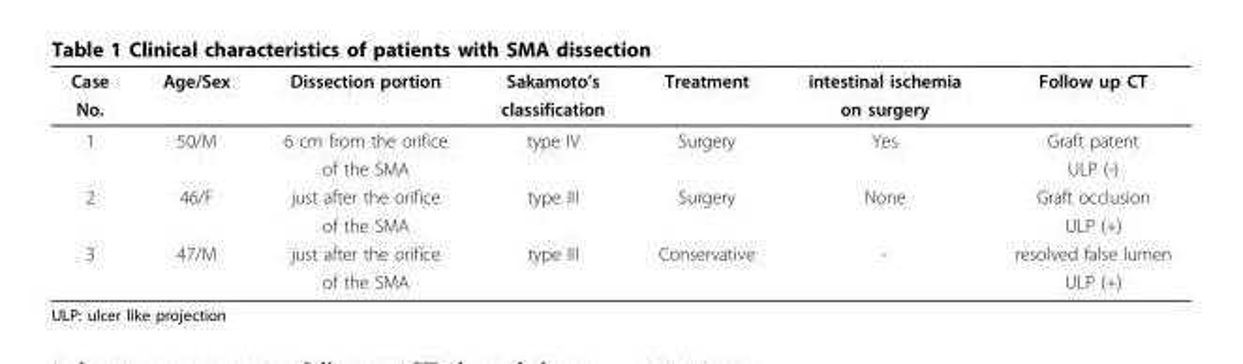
<table><thead><tr><td rowspan="2">Case No.</td><td rowspan="2">Age/Sex</td><td rowspan="2">Dissection portion</td><td rowspan="2">Sakamoto’s classification</td><td rowspan="2">Treatment</td><td rowspan="2">intestinal ischemia on surgery</td><td rowspan="2">Follow up CT</td></tr><tr></tr></thead><tbody><tr><td rowspan="2">1</td><td>50/M</td><td>6 cm from the orifice</td><td>type IV</td><td>Surgery</td><td>Yes</td><td>Graft patent</td></tr><tr><td></td><td>of the SMA</td><td></td><td></td><td></td><td>ULP (-)</td></tr><tr><td rowspan="2">2</td><td>46/F</td><td>just after the orifice</td><td>type III</td><td>Surgery</td><td>None</td><td>Graft occlusion</td></tr><tr><td></td><td>of the SMA</td><td></td><td></td><td></td><td>ULP (+)</td></tr><tr><td rowspan="2">3</td><td>47/M</td><td>just after the orifice</td><td>type III</td><td>Conservative</td><td>-</td><td>resolved false lumen</td></tr><tr><td></td><td>of the SMA</td><td></td><td></td><td></td><td>ULP (+)</td></tr></tbody></table>